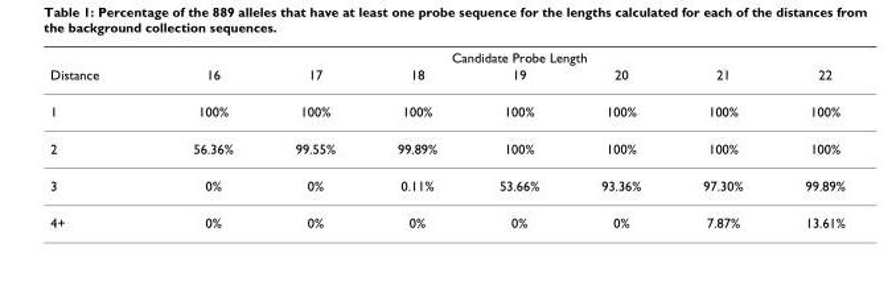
<table><thead><tr><td rowspan="2">Distance</td><td colspan="7">Candidate Probe Length</td></tr><tr><td>16</td><td>17</td><td>18</td><td>19</td><td>20</td><td>21</td><td>22</td></tr></thead><tbody><tr><td>1</td><td>100%</td><td>100%</td><td>100%</td><td>100%</td><td>100%</td><td>100%</td><td>100%</td></tr><tr><td>2</td><td>56.36%</td><td>99.55%</td><td>99.89%</td><td>100%</td><td>100%</td><td>100%</td><td>100%</td></tr><tr><td>3</td><td>0%</td><td>0%</td><td>0.11%</td><td>53.66%</td><td>93.36%</td><td>97.30%</td><td>99.89%</td></tr><tr><td>4+</td><td>0%</td><td>0%</td><td>0%</td><td>0%</td><td>0%</td><td>7.87%</td><td>13.61%</td></tr></tbody></table>